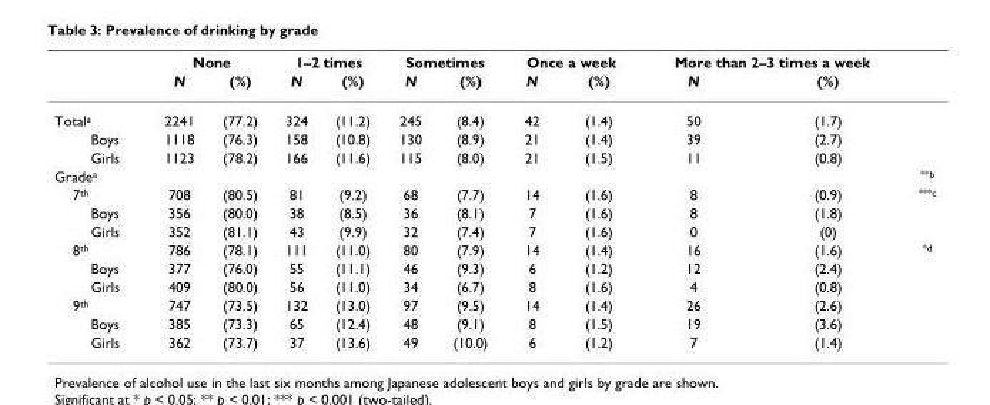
<table><thead><tr><td rowspan="2"></td><td colspan="2">None</td><td colspan="2">1–2 times</td><td colspan="2">Sometimes</td><td colspan="2">Once a week</td><td colspan="2">More than 2–3 times a week</td><td rowspan="2"></td></tr><tr><td>N</td><td>(%)</td><td>N</td><td>(%)</td><td>N</td><td>(%)</td><td>N</td><td>(%)</td><td>N</td><td>(%)</td></tr></thead><tbody><tr><td>Total<sup>a</sup></td><td>2241</td><td>(77.2)</td><td>324</td><td>(11.2)</td><td>245</td><td>(8.4)</td><td>42</td><td>(1.4)</td><td>50</td><td>(1.7)</td><td></td></tr><tr><td>Boys</td><td>1118</td><td>(76.3)</td><td>158</td><td>(10.8)</td><td>130</td><td>(8.9)</td><td>21</td><td>(1.4)</td><td>39</td><td>(2.7)</td><td></td></tr><tr><td>Girls</td><td>1123</td><td>(78.2)</td><td>166</td><td>(11.6)</td><td>115</td><td>(8.0)</td><td>21</td><td>(1.5)</td><td>11</td><td>(0.8)</td><td></td></tr><tr><td>Grade<sup>a</sup></td><td></td><td></td><td></td><td></td><td></td><td></td><td></td><td></td><td></td><td></td><td><sup>**b</sup></td></tr><tr><td>7<sup>th</sup></td><td>708</td><td>(80.5)</td><td>81</td><td>(9.2)</td><td>68</td><td>(7.7)</td><td>14</td><td>(1.6)</td><td>8</td><td>(0.9)</td><td><sup>***c</sup></td></tr><tr><td>Boys</td><td>356</td><td>(80.0)</td><td>38</td><td>(8.5)</td><td>36</td><td>(8.1)</td><td>7</td><td>(1.6)</td><td>8</td><td>(1.8)</td><td></td></tr><tr><td>Girls</td><td>352</td><td>(81.1)</td><td>43</td><td>(9.9)</td><td>32</td><td>(7.4)</td><td>7</td><td>(1.6)</td><td>0</td><td>(0)</td><td></td></tr><tr><td>8<sup>th</sup></td><td>786</td><td>(78.1)</td><td>111</td><td>(11.0)</td><td>80</td><td>(7.9)</td><td>14</td><td>(1.4)</td><td>16</td><td>(1.6)</td><td><sup>*d</sup></td></tr><tr><td>Boys</td><td>377</td><td>(76.0)</td><td>55</td><td>(11.1)</td><td>46</td><td>(9.3)</td><td>6</td><td>(1.2)</td><td>12</td><td>(2.4)</td><td></td></tr><tr><td>Girls</td><td>409</td><td>(80.0)</td><td>56</td><td>(11.0)</td><td>34</td><td>(6.7)</td><td>8</td><td>(1.6)</td><td>4</td><td>(0.8)</td><td></td></tr><tr><td>9<sup>th</sup></td><td>747</td><td>(73.5)</td><td>132</td><td>(13.0)</td><td>97</td><td>(9.5)</td><td>14</td><td>(1.4)</td><td>26</td><td>(2.6)</td><td></td></tr><tr><td>Boys</td><td>385</td><td>(73.3)</td><td>65</td><td>(12.4)</td><td>48</td><td>(9.1)</td><td>8</td><td>(1.5)</td><td>19</td><td>(3.6)</td><td></td></tr><tr><td>Girls</td><td>362</td><td>(73.7)</td><td>37</td><td>(13.6)</td><td>49</td><td>(10.0)</td><td>6</td><td>(1.2)</td><td>7</td><td>(1.4)</td><td></td></tr></tbody></table>